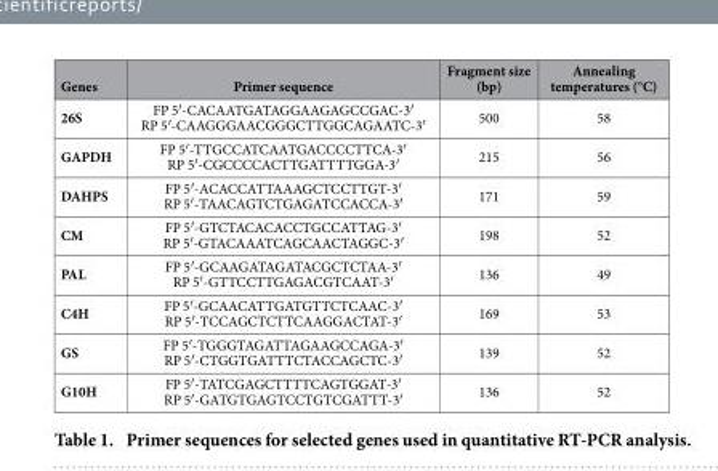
<table><thead><tr><td>Genes</td><td>Primer sequence</td><td>Fragment size (bp)</td><td>Annealing temperatures (°C)</td></tr></thead><tbody><tr><td>26S</td><td>FP 5′-CACAATGATAGGAAGAGCCGAC-3′ RP 5′-CAAGGGAACGGGCTTGGCAGAATC-3′</td><td>500</td><td>58</td></tr><tr><td>GAPDH</td><td>FP 5′-TTGCCATCAATGACCCCTTCA-3′ RP 5′-CGCCCCACTTGATTTTGGA-3′</td><td>215</td><td>56</td></tr><tr><td>DAHPS</td><td>FP 5′-ACACCATTAAAGCTCCTTGT-3′ RP 5′-TAACAGTCTGAGATCCACCA-3′</td><td>171</td><td>59</td></tr><tr><td>CM</td><td>FP 5′-GTCTACACACCTGCCATTAG-3′ RP 5′-GTACAAATCAGCAACTAGGC-3′</td><td>198</td><td>52</td></tr><tr><td>PAL</td><td>FP 5′-GCAAGATAGATACGCTCTAA-3′ RP 5′-GTTCCTTGAGACGTCAAT-3′</td><td>136</td><td>49</td></tr><tr><td>C4H</td><td>FP 5′-GCAACATTGATGTTCTCAAC-3′ RP 5′-TCCAGCTCTTCAAGGACTAT-3′</td><td>169</td><td>53</td></tr><tr><td>GS</td><td>FP 5′-TGGGTAGATTAGAAGCCAGA-3′ RP 5′-CTGGTGATTTCTACCAGCTC-3′</td><td>139</td><td>52</td></tr><tr><td>G10H</td><td>FP 5′-TATCGAGCTTTTCAGTGGAT-3′ RP 5′-GATGTGAGTCCTGTCGATTT-3′</td><td>136</td><td>52</td></tr></tbody></table>